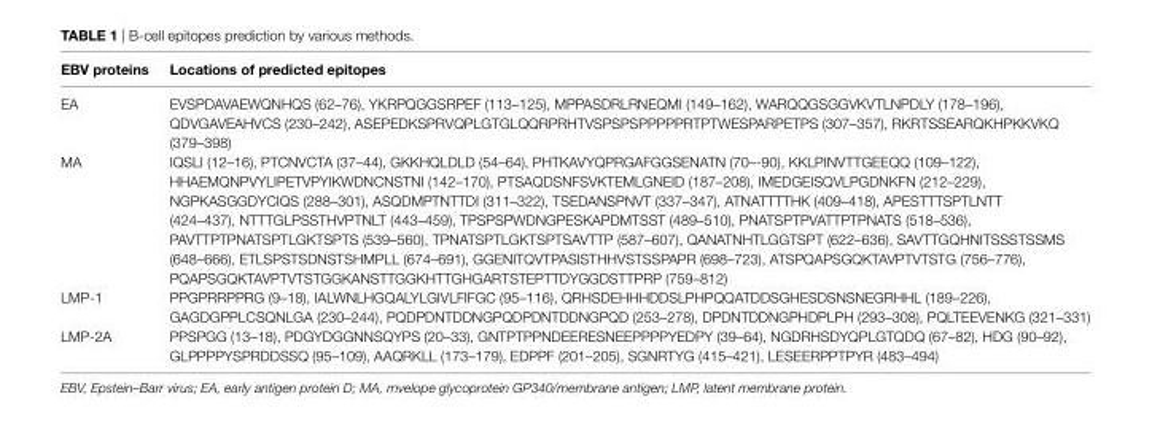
<table><thead><tr><td>eBV proteins</td><td>locations of predicted epitopes</td></tr></thead><tbody><tr><td>EA</td><td>EVSPDAVAEWQNHQS (62–76), YKRPQGGSRPEF (113–125), MPPASDRLRNEQMI (149–162), WARQQGSGGVKVTLNPDLY (178–196), QDVGAVEAHVCS (230–242), ASEPEDKSPRVQPLGTGLQQRPRHTVSPSPSPPPPPRTPTWESPARPETPS (307–357), RKRTSSEARQKHPKKVKQ (379–398)</td></tr><tr><td>MA</td><td>IQSLI (12–16), PTCNVCTA (37–44), GKKHQLDLD (54–64), PHTKAVYQPRGAFGGSENATN (70–-90), KKLPINVTTGEEQQ (109–122), HHAEMQNPVYLIPETVPYIKWDNCNSTNI (142–170), PTSAQDSNFSVKTEMLGNEID (187–208), IMEDGEISQVLPGDNKFN (212–229), NGPKASGGDYCIQS (288–301), ASQDMPTNTTDI (311–322), TSEDANSPNVT (337–347), ATNATTTTHK (409–418), APESTTTSPTLNTT (424–437), NTTTGLPSSTHVPTNLT (443–459), TPSPSPWDNGPESKAPDMTSST (489–510), PNATSPTPVATTPTPNATS (518–536), PAVTTPTPNATSPTLGKTSPTS (539–560), TPNATSPTLGKTSPTSAVTTP (587–607), QANATNHTLGGTSPT (622–636), SAVTTGQHNITSSSTSSMS (648–666), ETLSPSTSDNSTSHMPLL (674–691), GGENITQVTPASISTHHVSTSSPAPR (698–723), ATSPQAPSGQKTAVPTVTSTG (756–776), PQAPSGQKTAVPTVTSTGGKANSTTGGKHTTGHGARTSTEPTTDYGGDSTTPRP (759–812)</td></tr><tr><td>LMP-1</td><td>PPGPRRPPRG (9–18), IALWNLHGQALYLGIVLFIFGC (95–116), QRHSDEHHHDDSLPHPQQATDDSGHESDSNSNEGRHHL (189–226), GAGDGPPLCSQNLGA (230–244), PQDPDNTDDNGPQDPDNTDDNGPQD (253–278), DPDNTDDNGPHDPLPH (293–308), PQLTEEVENKG (321–331)</td></tr><tr><td>LMP-2A</td><td>PPSPGG (13–18), PDGYDGGNNSQYPS (20–33), GNTPTPPNDEERESNEEPPPPYEDPY (39–64), NGDRHSDYQPLGTQDQ (67–82), HDG (90–92), GLPPPPYSPRDDSSQ (95–109), AAQRKLL (173–179), EDPPF (201–205), SGNRTYG (415–421), LESEERPPTPYR (483–494)</td></tr></tbody></table>